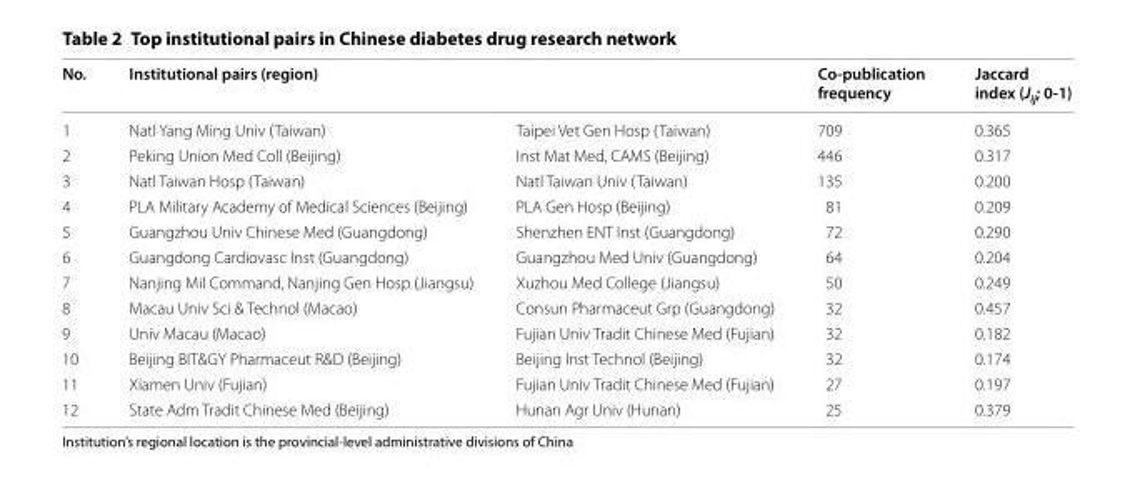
<table><thead><tr><td rowspan="2">No. 1</td><td colspan="2">Institutional pairs (region)</td><td rowspan="2">Co-publication frequency 709</td><td rowspan="2">Jaccard index (J<sub>ij</sub>; 0-1) 0.365</td></tr><tr><td>Natl Yang Ming Univ (Taiwan)</td><td>Taipei Vet Gen Hosp (Taiwan)</td></tr></thead><tbody><tr><td>2</td><td>Peking Union Med Coll (Beijing)</td><td>Inst Mat Med, CAMS (Beijing)</td><td>446</td><td>0.317</td></tr><tr><td>3</td><td>Natl Taiwan Hosp (Taiwan)</td><td>Natl Taiwan Univ (Taiwan)</td><td>135</td><td>0.200</td></tr><tr><td>4</td><td>PLA Military Academy of Medical Sciences (Beijing)</td><td>PLA Gen Hosp (Beijing)</td><td>81</td><td>0.209</td></tr><tr><td>5</td><td>Guangzhou Univ Chinese Med (Guangdong)</td><td>Shenzhen ENT Inst (Guangdong)</td><td>72</td><td>0.290</td></tr><tr><td>6</td><td>Guangdong Cardiovasc Inst (Guangdong)</td><td>Guangzhou Med Univ (Guangdong)</td><td>64</td><td>0.204</td></tr><tr><td>7</td><td>Nanjing Mil Command, Nanjing Gen Hosp (Jiangsu)</td><td>Xuzhou Med College (Jiangsu)</td><td>50</td><td>0.249</td></tr><tr><td>8</td><td>Macau Univ Sci &amp; Technol (Macao)</td><td>Consun Pharmaceut Grp (Guangdong)</td><td>32</td><td>0.457</td></tr><tr><td>9</td><td>Univ Macau (Macao)</td><td>Fujian Univ Tradit Chinese Med (Fujian)</td><td>32</td><td>0.182</td></tr><tr><td>10</td><td>Beijing BIT&amp;GY Pharmaceut R&amp;D (Beijing)</td><td>Beijing Inst Technol (Beijing)</td><td>32</td><td>0.174</td></tr><tr><td>11</td><td>Xiamen Univ (Fujian)</td><td>Fujian Univ Tradit Chinese Med (Fujian)</td><td>27</td><td>0.197</td></tr><tr><td>12</td><td>State Adm Tradit Chinese Med (Beijing)</td><td>Hunan Agr Univ (Hunan)</td><td>25</td><td>0.379</td></tr></tbody></table>